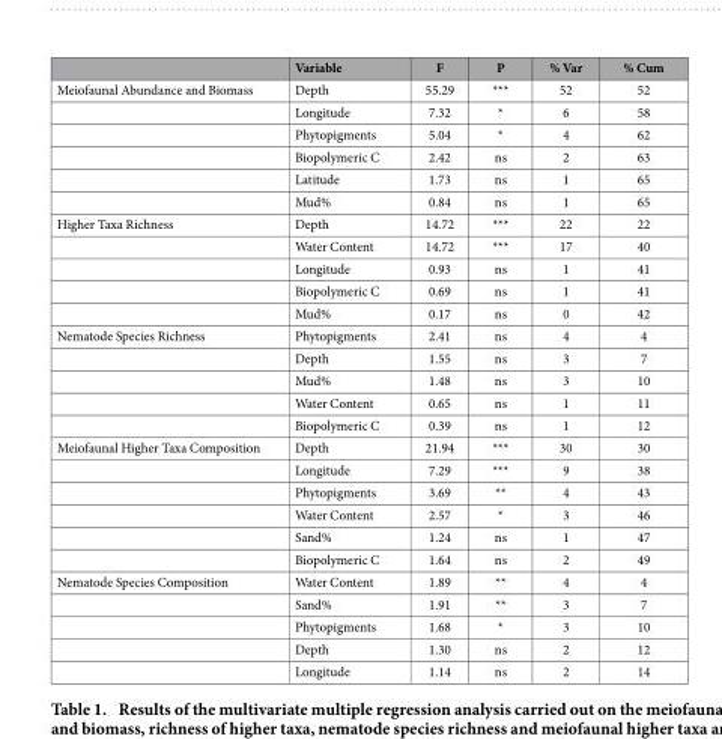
<table><thead><tr><td></td><td>Variable</td><td>F</td><td>P</td><td>% Var</td><td>% Cum</td></tr></thead><tbody><tr><td rowspan="6">Meiofaunal Abundance and Biomass</td><td>Depth</td><td>55.29</td><td>***</td><td>52</td><td>52</td></tr><tr><td>Longitude</td><td>7.32</td><td>*</td><td>6</td><td>58</td></tr><tr><td>Phytopigments</td><td>5.04</td><td>*</td><td>4</td><td>62</td></tr><tr><td>Biopolymeric C</td><td>2.42</td><td>ns</td><td>2</td><td>63</td></tr><tr><td>Latitude</td><td>1.73</td><td>ns</td><td>1</td><td>65</td></tr><tr><td>Mud%</td><td>0.84</td><td>ns</td><td>1</td><td>65</td></tr><tr><td rowspan="5">Higher Taxa Richness</td><td>Depth</td><td>14.72</td><td>***</td><td>22</td><td>22</td></tr><tr><td>Water Content</td><td>14.72</td><td>***</td><td>17</td><td>40</td></tr><tr><td>Longitude</td><td>0.93</td><td>ns</td><td>1</td><td>41</td></tr><tr><td>Biopolymeric C</td><td>0.69</td><td>ns</td><td>1</td><td>41</td></tr><tr><td>Mud%</td><td>0.17</td><td>ns</td><td>0</td><td>42</td></tr><tr><td rowspan="5">Nematode Species Richness</td><td>Phytopigments</td><td>2.41</td><td>ns</td><td>4</td><td>4</td></tr><tr><td>Depth</td><td>1.55</td><td>ns</td><td>3</td><td>7</td></tr><tr><td>Mud%</td><td>1.48</td><td>ns</td><td>3</td><td>10</td></tr><tr><td>Water Content</td><td>0.65</td><td>ns</td><td>1</td><td>11</td></tr><tr><td>Biopolymeric C</td><td>0.39</td><td>ns</td><td>1</td><td>12</td></tr><tr><td rowspan="6">Meiofaunal Higher Taxa Composition</td><td>Depth</td><td>21.94</td><td>***</td><td>30</td><td>30</td></tr><tr><td>Longitude</td><td>7.29</td><td>***</td><td>9</td><td>38</td></tr><tr><td>Phytopigments</td><td>3.69</td><td>**</td><td>4</td><td>43</td></tr><tr><td>Water Content</td><td>2.57</td><td>*</td><td>3</td><td>46</td></tr><tr><td>Sand%</td><td>1.24</td><td>ns</td><td>1</td><td>47</td></tr><tr><td>Biopolymeric C</td><td>1.64</td><td>ns</td><td>2</td><td>49</td></tr><tr><td rowspan="5">Nematode Species Composition</td><td>Water Content</td><td>1.89</td><td>**</td><td>4</td><td>4</td></tr><tr><td>Sand%</td><td>1.91</td><td>**</td><td>3</td><td>7</td></tr><tr><td>Phytopigments</td><td>1.68</td><td>*</td><td>3</td><td>10</td></tr><tr><td>Depth</td><td>1.30</td><td>ns</td><td>2</td><td>12</td></tr><tr><td>Longitude</td><td>1.14</td><td>ns</td><td>2</td><td>14</td></tr></tbody></table>